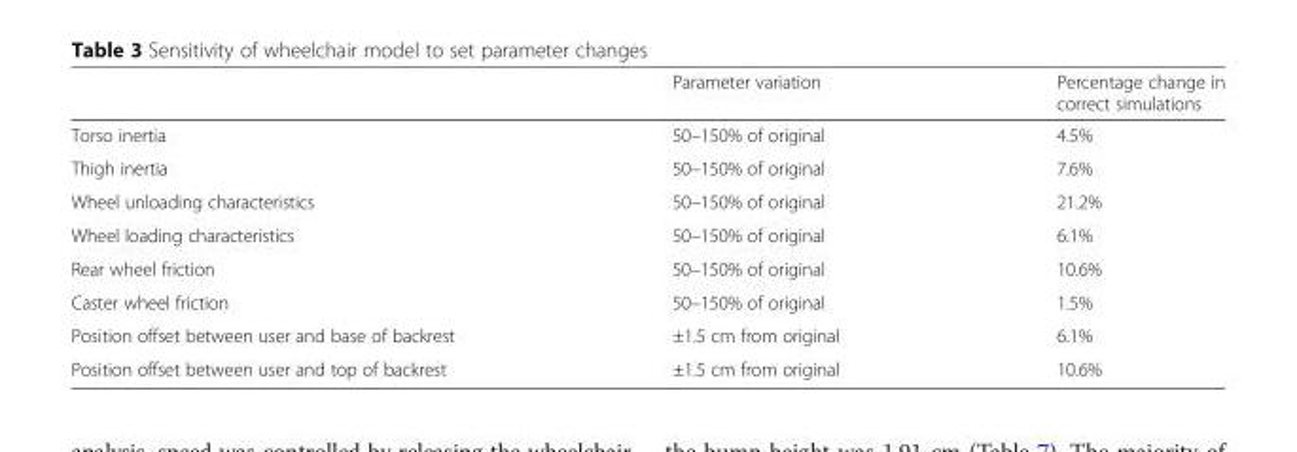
<table><thead><tr><td></td><td>Parameter variation</td><td>Percentage change in correct simulations</td></tr></thead><tbody><tr><td>Torso inertia</td><td>50–150% of original</td><td>4.5%</td></tr><tr><td>Thigh inertia</td><td>50–150% of original</td><td>7.6%</td></tr><tr><td>Wheel unloading characteristics</td><td>50–150% of original</td><td>21.2%</td></tr><tr><td>Wheel loading characteristics</td><td>50–150% of original</td><td>6.1%</td></tr><tr><td>Rear wheel friction</td><td>50–150% of original</td><td>10.6%</td></tr><tr><td>Caster wheel friction</td><td>50–150% of original</td><td>1.5%</td></tr><tr><td>Position offset between user and base of backrest</td><td>±1.5 cm from original</td><td>6.1%</td></tr><tr><td>Position offset between user and top of backrest</td><td>±1.5 cm from original</td><td>10.6%</td></tr></tbody></table>